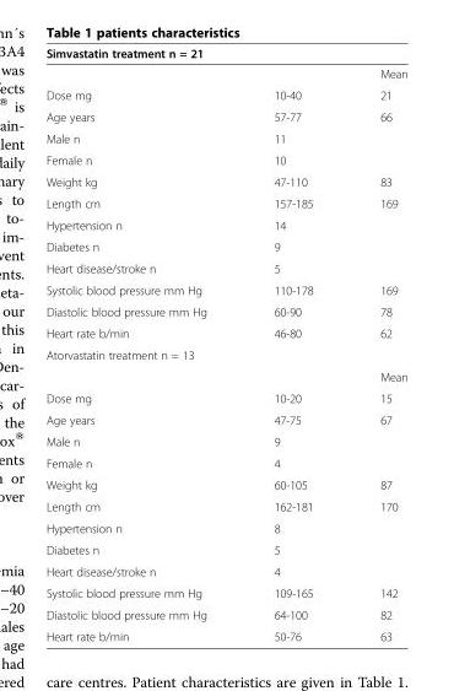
<table><thead><tr><td colspan="3">Simvastatin treatment n = 21</td></tr><tr><td></td><td></td><td>Mean</td></tr></thead><tbody><tr><td>Dose mg</td><td>10-40</td><td>21</td></tr><tr><td>Age years</td><td>57-77</td><td>66</td></tr><tr><td>Male n</td><td>11</td><td></td></tr><tr><td>Female n</td><td>10</td><td></td></tr><tr><td>Weight kg</td><td>47-110</td><td>83</td></tr><tr><td>Length cm</td><td>157-185</td><td>169</td></tr><tr><td>Hypertension n</td><td>14</td><td></td></tr><tr><td>Diabetes n</td><td>9</td><td></td></tr><tr><td>Heart disease/stroke n</td><td>5</td><td></td></tr><tr><td>Systolic blood pressure mm Hg</td><td>110-178</td><td>169</td></tr><tr><td>Diastolic blood pressure mm Hg</td><td>60-90</td><td>78</td></tr><tr><td>Heart rate b/min</td><td>46-80</td><td>62</td></tr><tr><td colspan="3">Atorvastatin treatment n = 13</td></tr><tr><td></td><td></td><td>Mean</td></tr><tr><td>Dose mg</td><td>10-20</td><td>15</td></tr><tr><td>Age years</td><td>47-75</td><td>67</td></tr><tr><td>Male n</td><td>9</td><td></td></tr><tr><td>Female n</td><td>4</td><td></td></tr><tr><td>Weight kg</td><td>60-105</td><td>87</td></tr><tr><td>Length cm</td><td>162-181</td><td>170</td></tr><tr><td>Hypertension n</td><td>8</td><td></td></tr><tr><td>Diabetes n</td><td>5</td><td></td></tr><tr><td>Heart disease/stroke n</td><td>4</td><td></td></tr><tr><td>Systolic blood pressure mm Hg</td><td>109-165</td><td>142</td></tr><tr><td>Diastolic blood pressure mm Hg</td><td>64-100</td><td>82</td></tr><tr><td>Heart rate b/min</td><td>50-76</td><td>63</td></tr></tbody></table>